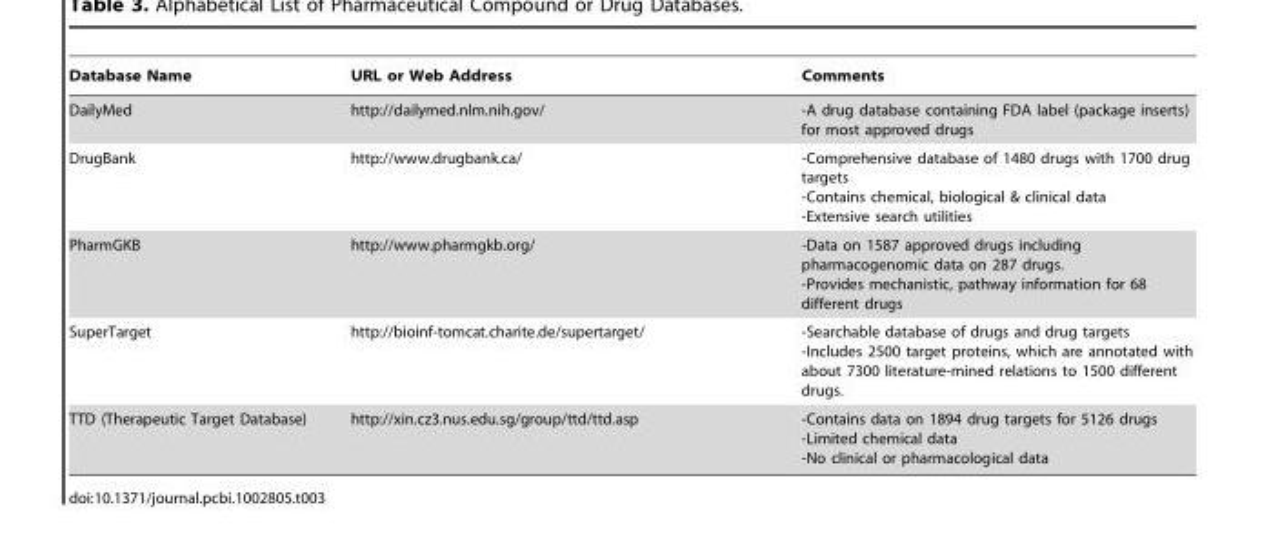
<table><thead><tr><td>Database Name</td><td>URL or Web Address</td><td>Comments</td></tr></thead><tbody><tr><td>DailyMed</td><td>http://dailymed.nlm.nih.gov/</td><td>-A drug database containing FDA label (package inserts) for most approved drugs</td></tr><tr><td>DrugBank</td><td>http://www.drugbank.ca/</td><td>-Comprehensive database of 1480 drugs with 1700 drug targets -Contains chemical, biological &amp; clinical data -Extensive search utilities</td></tr><tr><td>PharmGKB</td><td>http://www.pharmgkb.org/</td><td>-Data on 1587 approved drugs including pharmacogenomic data on 287 drugs. -Provides mechanistic, pathway information for 68 different drugs</td></tr><tr><td>SuperTarget</td><td>http://bioinf-tomcat.charite.de/supertarget/</td><td>-Searchable database of drugs and drug targets -Includes 2500 target proteins, which are annotated with about 7300 literature-mined relations to 1500 different drugs.</td></tr><tr><td>TTD (Therapeutic Target Database)</td><td>http://xin.cz3.nus.edu.sg/group/ttd/ttd.asp</td><td>-Contains data on 1894 drug targets for 5126 drugs -Limited chemical data -No clinical or pharmacological data</td></tr></tbody></table>